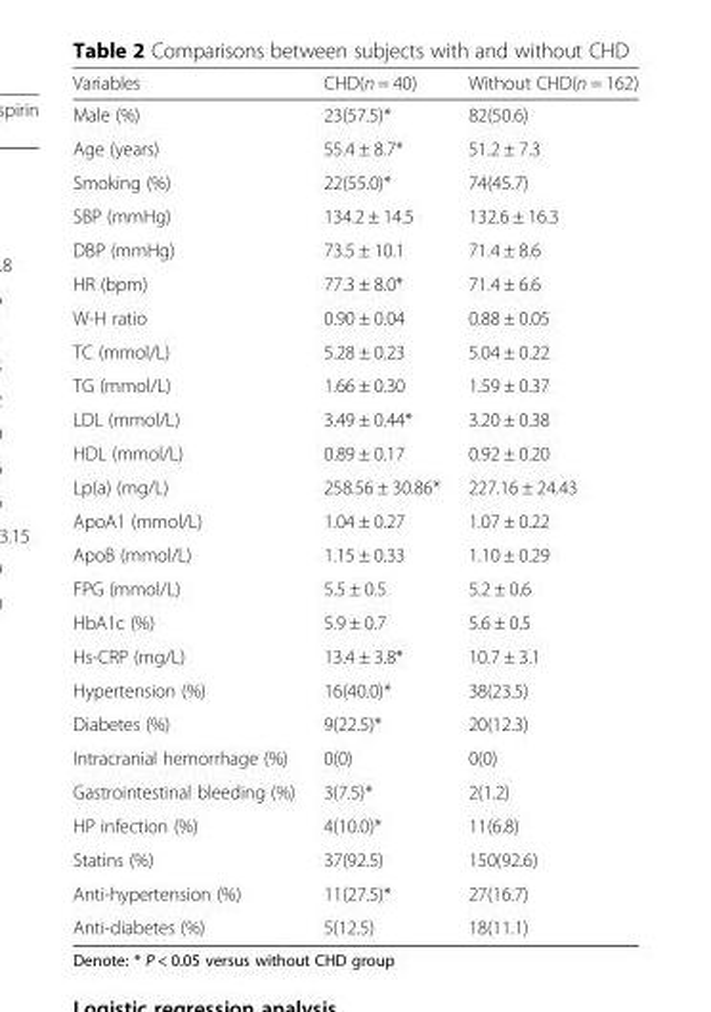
<table><thead><tr><td>Variables</td><td>CHD(n = 40)</td><td>Without CHD(n = 162)</td></tr></thead><tbody><tr><td>Male (%)</td><td>23(57.5)*</td><td>82(50.6)</td></tr><tr><td>Age (years)</td><td>55.4 ± 8.7*</td><td>51.2 ± 7.3</td></tr><tr><td>Smoking (%)</td><td>22(55.0)*</td><td>74(45.7)</td></tr><tr><td>SBP (mmHg)</td><td>134.2 ± 14.5</td><td>132.6 ± 16.3</td></tr><tr><td>DBP (mmHg)</td><td>73.5 ± 10.1</td><td>71.4 ± 8.6</td></tr><tr><td>HR (bpm)</td><td>77.3 ± 8.0*</td><td>71.4 ± 6.6</td></tr><tr><td>W-H ratio</td><td>0.90 ± 0.04</td><td>0.88 ± 0.05</td></tr><tr><td>TC (mmol/L)</td><td>5.28 ± 0.23</td><td>5.04 ± 0.22</td></tr><tr><td>TG (mmol/L)</td><td>1.66 ± 0.30</td><td>1.59 ± 0.37</td></tr><tr><td>LDL (mmol/L)</td><td>3.49 ± 0.44*</td><td>3.20 ± 0.38</td></tr><tr><td>HDL (mmol/L)</td><td>0.89 ± 0.17</td><td>0.92 ± 0.20</td></tr><tr><td>Lp(a) (mg/L)</td><td>258.56 ± 30.86*</td><td>227.16 ± 24.43</td></tr><tr><td>ApoA1 (mmol/L)</td><td>1.04 ± 0.27</td><td>1.07 ± 0.22</td></tr><tr><td>ApoB (mmol/L)</td><td>1.15 ± 0.33</td><td>1.10 ± 0.29</td></tr><tr><td>FPG (mmol/L)</td><td>5.5 ± 0.5</td><td>5.2 ± 0.6</td></tr><tr><td>HbA1c (%)</td><td>5.9 ± 0.7</td><td>5.6 ± 0.5</td></tr><tr><td>Hs-CRP (mg/L)</td><td>13.4 ± 3.8*</td><td>10.7 ± 3.1</td></tr><tr><td>Hypertension (%)</td><td>16(40.0)*</td><td>38(23.5)</td></tr><tr><td>Diabetes (%)</td><td>9(22.5)*</td><td>20(12.3)</td></tr><tr><td>Intracranial hemorrhage (%)</td><td>0(0)</td><td>0(0)</td></tr><tr><td>Gastrointestinal bleeding (%)</td><td>3(7.5)*</td><td>2(1.2)</td></tr><tr><td>HP infection (%)</td><td>4(10.0)*</td><td>11(6.8)</td></tr><tr><td>Statins (%)</td><td>37(92.5)</td><td>150(92.6)</td></tr><tr><td>Anti-hypertension (%)</td><td>11(27.5)*</td><td>27(16.7)</td></tr><tr><td>Anti-diabetes (%)</td><td>5(12.5)</td><td>18(11.1)</td></tr></tbody></table>